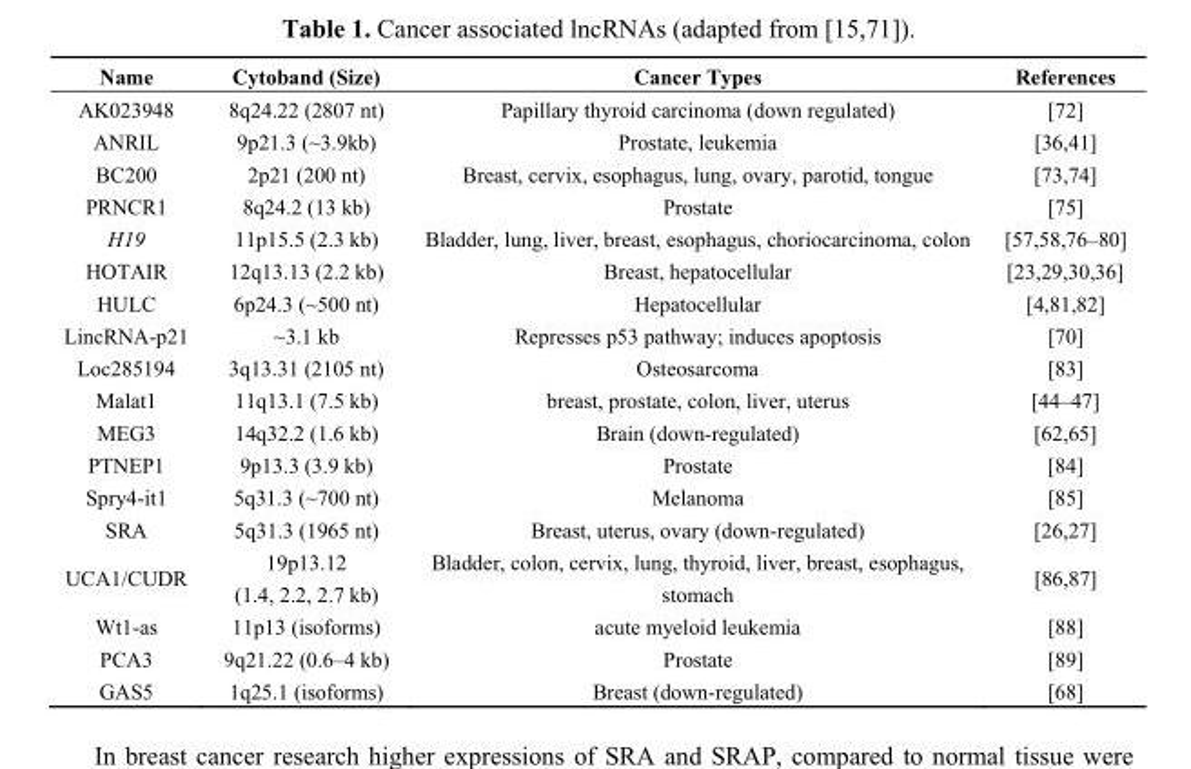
<table><thead><tr><td>Name</td><td>Cytoband (Size)</td><td>Cancer Types</td><td>References</td></tr></thead><tbody><tr><td>AK023948</td><td>8q24.22 (2807 nt)</td><td>Papillary thyroid carcinoma (down regulated)</td><td>[72]</td></tr><tr><td>ANRIL</td><td>9p21.3 (~3.9kb)</td><td>Prostate, leukemia</td><td>[36,41]</td></tr><tr><td>BC200</td><td>2p21 (200 nt)</td><td>Breast, cervix, esophagus, lung, ovary, parotid, tongue</td><td>[73,74]</td></tr><tr><td>PRNCR1</td><td>8q24.2 (13 kb)</td><td>Prostate</td><td>[75]</td></tr><tr><td>H19</td><td>11p15.5 (2.3 kb)</td><td>Bladder, lung, liver, breast, esophagus, choriocarcinoma, colon</td><td>[57,58,76–80]</td></tr><tr><td>HOTAIR</td><td>12q13.13 (2.2 kb)</td><td>Breast, hepatocellular</td><td>[23,29,30,36]</td></tr><tr><td>HULC</td><td>6p24.3 (~500 nt)</td><td>Hepatocellular</td><td>[4,81,82]</td></tr><tr><td>LincRNA-p21</td><td>~3.1 kb</td><td>Represses p53 pathway; induces apoptosis</td><td>[70]</td></tr><tr><td>Loc285194</td><td>3q13.31 (2105 nt)</td><td>Osteosarcoma</td><td>[83]</td></tr><tr><td>Malat1</td><td>11q13.1 (7.5 kb)</td><td>breast, prostate, colon, liver, uterus</td><td>[44–47]</td></tr><tr><td>MEG3</td><td>14q32.2 (1.6 kb)</td><td>Brain (down-regulated)</td><td>[62,65]</td></tr><tr><td>PTNEP1</td><td>9p13.3 (3.9 kb)</td><td>Prostate</td><td>[84]</td></tr><tr><td>Spry4-it1</td><td>5q31.3 (~700 nt)</td><td>Melanoma</td><td>[85]</td></tr><tr><td>SRA</td><td>5q31.3 (1965 nt)</td><td>Breast, uterus, ovary (down-regulated)</td><td>[26,27]</td></tr><tr><td>UCA1/CUDR</td><td>19p13.12 (1.4, 2.2, 2.7 kb)</td><td>Bladder, colon, cervix, lung, thyroid, liver, breast, esophagus, stomach</td><td>[86,87]</td></tr><tr><td>Wt1-as</td><td>11p13 (isoforms)</td><td>acute myeloid leukemia</td><td>[88]</td></tr><tr><td>PCA3</td><td>9q21.22 (0.6–4 kb)</td><td>Prostate</td><td>[89]</td></tr><tr><td>GAS5</td><td>1q25.1 (isoforms)</td><td>Breast (down-regulated)</td><td>[68]</td></tr></tbody></table>